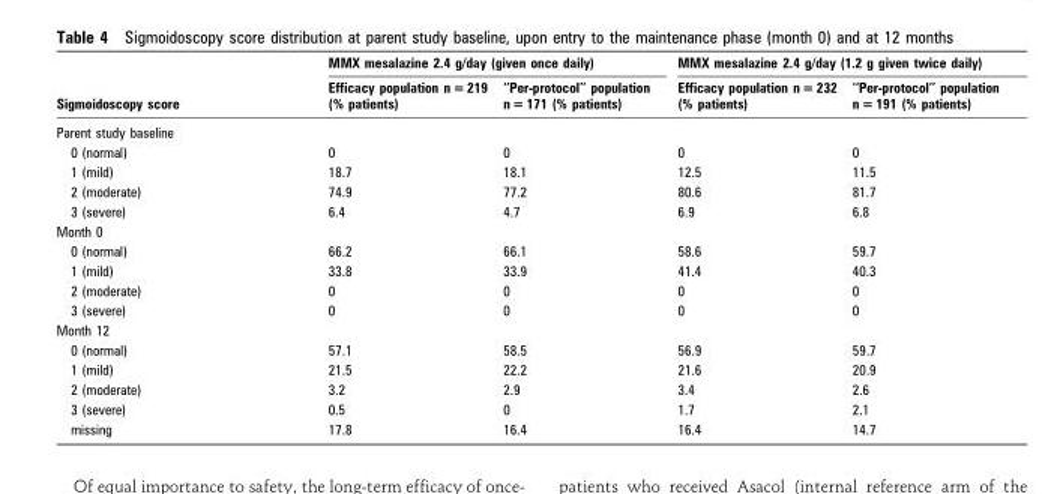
<table><thead><tr><td rowspan="2">Sigmoidoscopy score</td><td colspan="2">MMX mesalazine 2.4 g/day (given once daily)</td><td colspan="2">MMX mesalazine 2.4 g/day (1.2 g given twice daily)</td></tr><tr><td>Efficacy population n = 219 (% patients)</td><td>‘‘Per-protocol’’ population n = 171 (% patients)</td><td>Efficacy population n = 232 (% patients)</td><td>‘‘Per-protocol’’ population n = 191 (% patients)</td></tr></thead><tbody><tr><td colspan="5">Parent study baseline</td></tr><tr><td>0 (normal)</td><td>0</td><td>0</td><td>0</td><td>0</td></tr><tr><td>1 (mild)</td><td>18.7</td><td>18.1</td><td>12.5</td><td>11.5</td></tr><tr><td>2 (moderate)</td><td>74.9</td><td>77.2</td><td>80.6</td><td>81.7</td></tr><tr><td>3 (severe)</td><td>6.4</td><td>4.7</td><td>6.9</td><td>6.8</td></tr><tr><td colspan="5">Month 0</td></tr><tr><td>0 (normal)</td><td>66.2</td><td>66.1</td><td>58.6</td><td>59.7</td></tr><tr><td>1 (mild)</td><td>33.8</td><td>33.9</td><td>41.4</td><td>40.3</td></tr><tr><td>2 (moderate)</td><td>0</td><td>0</td><td>0</td><td>0</td></tr><tr><td>3 (severe)</td><td>0</td><td>0</td><td>0</td><td>0</td></tr><tr><td colspan="5">Month 12</td></tr><tr><td>0 (normal)</td><td>57.1</td><td>58.5</td><td>56.9</td><td>59.7</td></tr><tr><td>1 (mild)</td><td>21.5</td><td>22.2</td><td>21.6</td><td>20.9</td></tr><tr><td>2 (moderate)</td><td>3.2</td><td>2.9</td><td>3.4</td><td>2.6</td></tr><tr><td>3 (severe)</td><td>0.5</td><td>0</td><td>1.7</td><td>2.1</td></tr><tr><td>missing</td><td>17.8</td><td>16.4</td><td>16.4</td><td>14.7</td></tr></tbody></table>